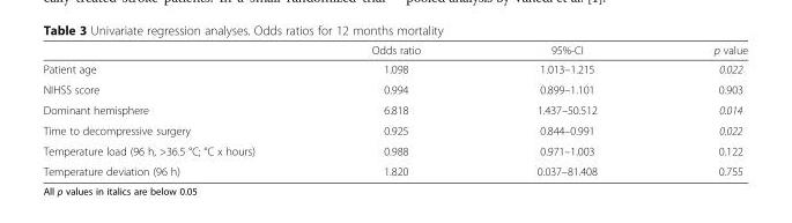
<table><thead><tr><td></td><td>Odds ratio</td><td>95%-CI</td><td>p value</td></tr></thead><tbody><tr><td>Patient age</td><td>1.098</td><td>1.013–1.215</td><td>0.022</td></tr><tr><td>NIHSS score</td><td>0.994</td><td>0.899–1.101</td><td>0.903</td></tr><tr><td>Dominant hemisphere</td><td>6.818</td><td>1.437–50.512</td><td>0.014</td></tr><tr><td>Time to decompressive surgery</td><td>0.925</td><td>0.844–0.991</td><td>0.022</td></tr><tr><td>Temperature load (96 h, &gt;36.5 °C; °C x hours)</td><td>0.988</td><td>0.971–1.003</td><td>0.122</td></tr><tr><td>Temperature deviation (96 h)</td><td>1.820</td><td>0.037–81.408</td><td>0.755</td></tr></tbody></table>